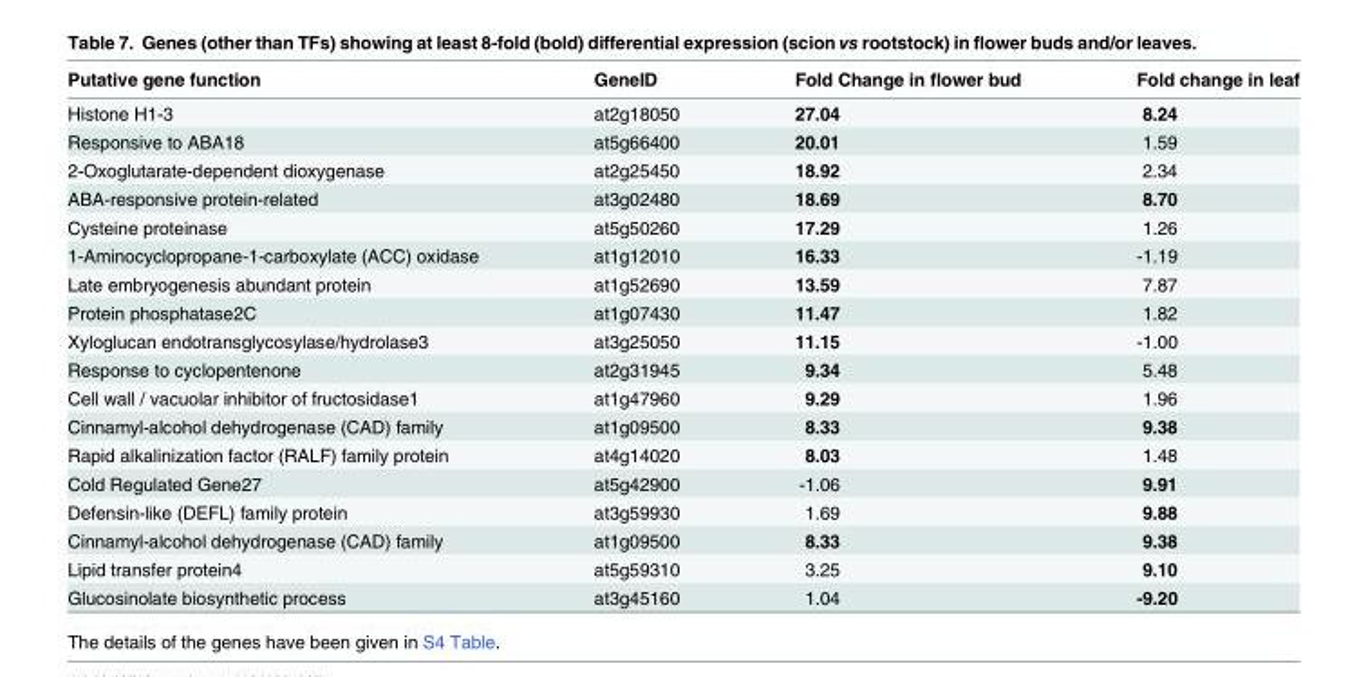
<table><thead><tr><td>Putative gene function</td><td>GeneID</td><td>Fold Change in flower bud</td><td>Fold change in leaf</td></tr></thead><tbody><tr><td>Histone H1-3</td><td>at2g18050</td><td>27.04</td><td>8.24</td></tr><tr><td>Responsive to ABA18</td><td>at5g66400</td><td>20.01</td><td>1.59</td></tr><tr><td>2-Oxoglutarate-dependent dioxygenase</td><td>at2g25450</td><td>18.92</td><td>2.34</td></tr><tr><td>ABA-responsive protein-related</td><td>at3g02480</td><td>18.69</td><td>8.70</td></tr><tr><td>Cysteine proteinase</td><td>at5g50260</td><td>17.29</td><td>1.26</td></tr><tr><td>1-Aminocyclopropane-1-carboxylate (ACC) oxidase</td><td>at1g12010</td><td>16.33</td><td>-1.19</td></tr><tr><td>Late embryogenesis abundant protein</td><td>at1g52690</td><td>13.59</td><td>7.87</td></tr><tr><td>Protein phosphatase2C</td><td>at1g07430</td><td>11.47</td><td>1.82</td></tr><tr><td>Xyloglucan endotransglycosylase/hydrolase3</td><td>at3g25050</td><td>11.15</td><td>-1.00</td></tr><tr><td>Response to cyclopentenone</td><td>at2g31945</td><td>9.34</td><td>5.48</td></tr><tr><td>Cell wall / vacuolar inhibitor of fructosidase1</td><td>at1g47960</td><td>9.29</td><td>1.96</td></tr><tr><td>Cinnamyl-alcohol dehydrogenase (CAD) family</td><td>at1g09500</td><td>8.33</td><td>9.38</td></tr><tr><td>Rapid alkalinization factor (RALF) family protein</td><td>at4g14020</td><td>8.03</td><td>1.48</td></tr><tr><td>Cold Regulated Gene27</td><td>at5g42900</td><td>-1.06</td><td>9.91</td></tr><tr><td>Defensin-like (DEFL) family protein</td><td>at3g59930</td><td>1.69</td><td>9.88</td></tr><tr><td>Cinnamyl-alcohol dehydrogenase (CAD) family</td><td>at1g09500</td><td>8.33</td><td>9.38</td></tr><tr><td>Lipid transfer protein4</td><td>at5g59310</td><td>3.25</td><td>9.10</td></tr><tr><td>Glucosinolate biosynthetic process</td><td>at3g45160</td><td>1.04</td><td>-9.20</td></tr></tbody></table>